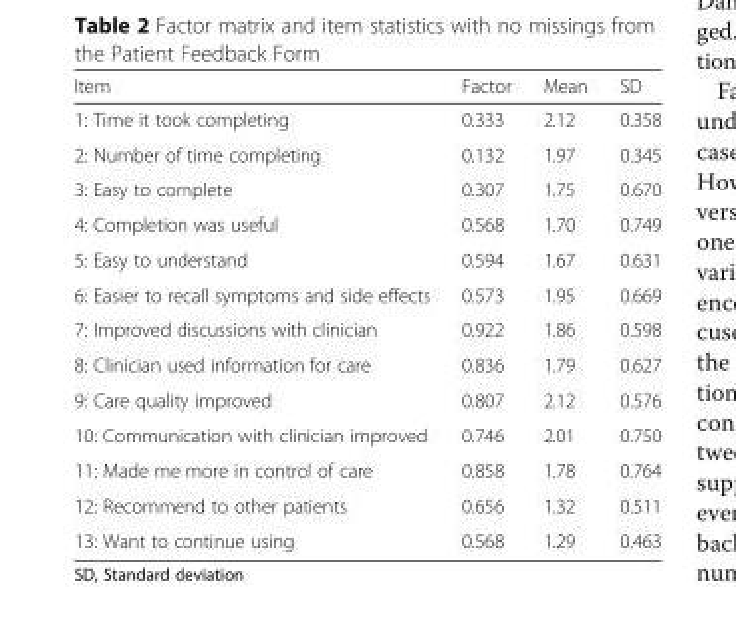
<table><thead><tr><td>Item</td><td>Factor</td><td>Mean</td><td>SD</td></tr></thead><tbody><tr><td>1: Time it took completing</td><td>0.333</td><td>2.12</td><td>0.358</td></tr><tr><td>2: Number of time completing</td><td>0.132</td><td>1.97</td><td>0.345</td></tr><tr><td>3: Easy to complete</td><td>0.307</td><td>1.75</td><td>0.670</td></tr><tr><td>4: Completion was useful</td><td>0.568</td><td>1.70</td><td>0.749</td></tr><tr><td>5: Easy to understand</td><td>0.594</td><td>1.67</td><td>0.631</td></tr><tr><td>6: Easier to recall symptoms and side effects</td><td>0.573</td><td>1.95</td><td>0.669</td></tr><tr><td>7: Improved discussions with clinician</td><td>0.922</td><td>1.86</td><td>0.598</td></tr><tr><td>8: Clinician used information for care</td><td>0.836</td><td>1.79</td><td>0.627</td></tr><tr><td>9: Care quality improved</td><td>0.807</td><td>2.12</td><td>0.576</td></tr><tr><td>10: Communication with clinician improved</td><td>0.746</td><td>2.01</td><td>0.750</td></tr><tr><td>11: Made me more in control of care</td><td>0.858</td><td>1.78</td><td>0.764</td></tr><tr><td>12: Recommend to other patients</td><td>0.656</td><td>1.32</td><td>0.511</td></tr><tr><td>13: Want to continue using</td><td>0.568</td><td>1.29</td><td>0.463</td></tr></tbody></table>